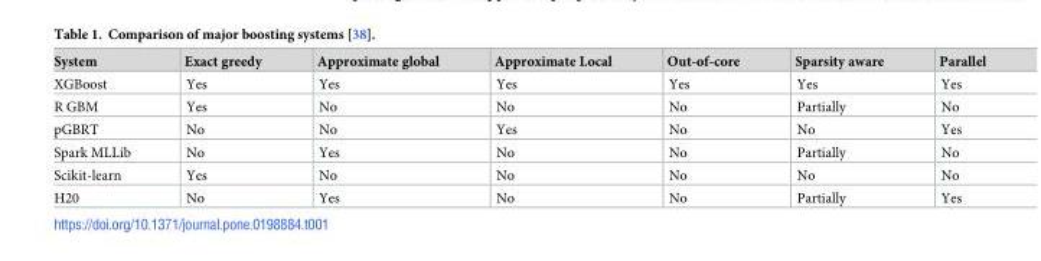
<table><thead><tr><td>System</td><td>Exact greedy</td><td>Approximate global</td><td>Approximate Local</td><td>Out-of-core</td><td>Sparsity aware</td><td>Parallel</td></tr></thead><tbody><tr><td>XGBoost</td><td>Yes</td><td>Yes</td><td>Yes</td><td>Yes</td><td>Yes</td><td>Yes</td></tr><tr><td>R GBM</td><td>Yes</td><td>No</td><td>No</td><td>No</td><td>Partially</td><td>No</td></tr><tr><td>pGBRT</td><td>No</td><td>No</td><td>Yes</td><td>No</td><td>No</td><td>Yes</td></tr><tr><td>Spark MLLib</td><td>No</td><td>Yes</td><td>No</td><td>No</td><td>Partially</td><td>No</td></tr><tr><td>Scikit-learn</td><td>Yes</td><td>No</td><td>No</td><td>No</td><td>No</td><td>No</td></tr><tr><td>H20</td><td>No</td><td>Yes</td><td>No</td><td>No</td><td>Partially</td><td>Yes</td></tr></tbody></table>